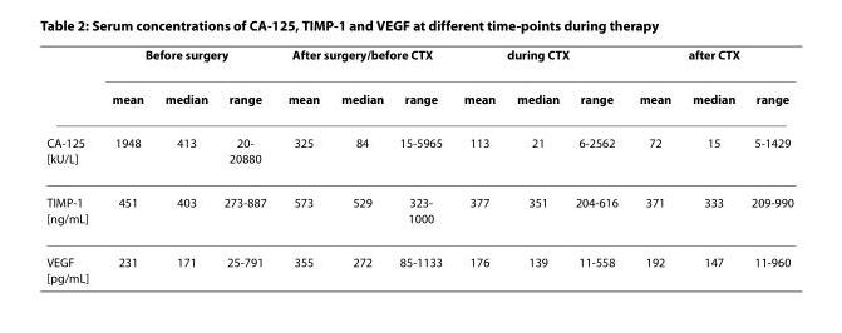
<table><thead><tr><td rowspan="2"></td><td colspan="3">Before surgery</td><td colspan="3">After surgery/before CTX</td><td colspan="3">during CTX</td><td colspan="3">after CTX</td></tr><tr><td>mean</td><td>median</td><td>range</td><td>mean</td><td>median</td><td>range</td><td>mean</td><td>median</td><td>range</td><td>mean</td><td>median</td><td>range</td></tr></thead><tbody><tr><td>CA-125 [kU/L]</td><td>1948</td><td>413</td><td>20- 20880</td><td>325</td><td>84</td><td>15-5965</td><td>113</td><td>21</td><td>6-2562</td><td>72</td><td>15</td><td>5-1429</td></tr><tr><td>TIMP-1 [ng/mL]</td><td>451</td><td>403</td><td>273-887</td><td>573</td><td>529</td><td>323- 1000</td><td>377</td><td>351</td><td>204-616</td><td>371</td><td>333</td><td>209-990</td></tr><tr><td>VEGF [pg/mL]</td><td>231</td><td>171</td><td>25-791</td><td>355</td><td>272</td><td>85-1133</td><td>176</td><td>139</td><td>11-558</td><td>192</td><td>147</td><td>11-960</td></tr></tbody></table>